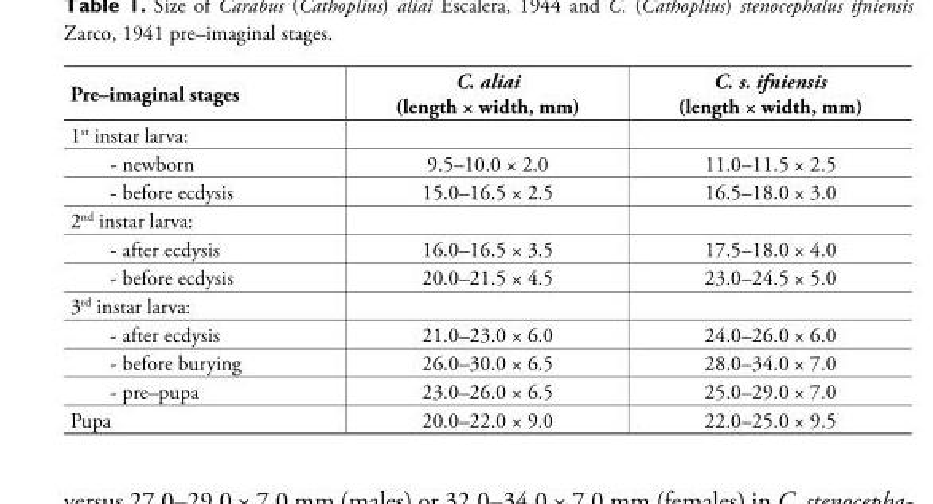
<table><thead><tr><td>Pre–imaginal stages</td><td>C. aliai (length × width, mm)</td><td>C. s. ifniensis (length × width, mm)</td></tr></thead><tbody><tr><td colspan="3">1<sup>st</sup> instar larva:</td></tr><tr><td>- newborn</td><td>9.5–10.0 × 2.0</td><td>11.0–11.5 × 2.5</td></tr><tr><td>- before ecdysis</td><td>15.0–16.5 × 2.5</td><td>16.5–18.0 × 3.0</td></tr><tr><td colspan="3">2<sup>nd</sup> instar larva:</td></tr><tr><td>- after ecdysis</td><td>16.0–16.5 × 3.5</td><td>17.5–18.0 × 4.0</td></tr><tr><td>- before ecdysis</td><td>20.0–21.5 × 4.5</td><td>23.0–24.5 × 5.0</td></tr><tr><td colspan="3">3<sup>rd</sup> instar larva:</td></tr><tr><td>- after ecdysis</td><td>21.0–23.0 × 6.0</td><td>24.0–26.0 × 6.0</td></tr><tr><td>- before burying</td><td>26.0–30.0 × 6.5</td><td>28.0–34.0 × 7.0</td></tr><tr><td>- pre–pupa</td><td>23.0–26.0 × 6.5</td><td>25.0–29.0 × 7.0</td></tr><tr><td>Pupa</td><td>20.0–22.0 × 9.0</td><td>22.0–25.0 × 9.5</td></tr></tbody></table>